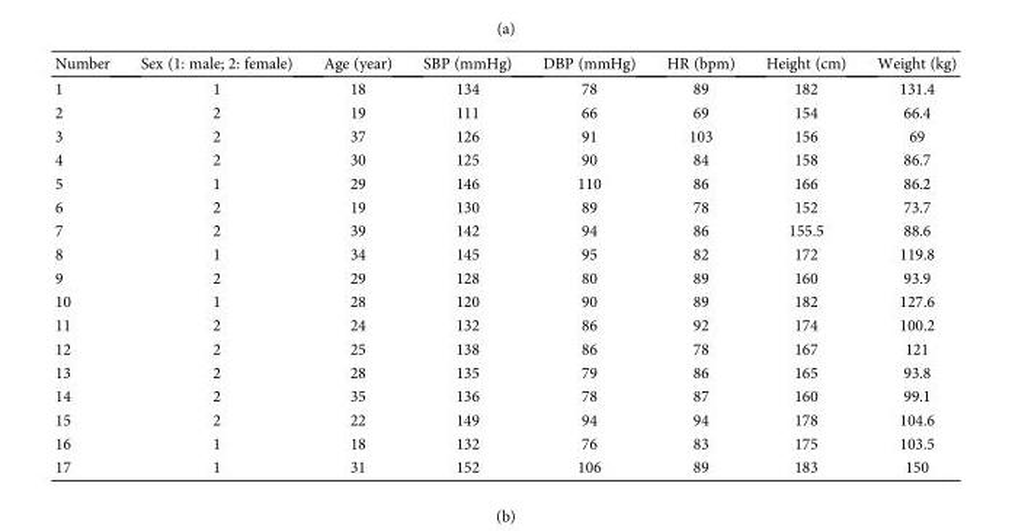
<table><thead><tr><td>Number</td><td>Sex (1: male; 2: female)</td><td>Age (year)</td><td>SBP (mmHg)</td><td>DBP (mmHg)</td><td>HR (bpm)</td><td>Height (cm)</td><td>Weight (kg)</td></tr></thead><tbody><tr><td>1</td><td>1</td><td>18</td><td>134</td><td>78</td><td>89</td><td>182</td><td>131.4</td></tr><tr><td>2</td><td>2</td><td>19</td><td>111</td><td>66</td><td>69</td><td>154</td><td>66.4</td></tr><tr><td>3</td><td>2</td><td>37</td><td>126</td><td>91</td><td>103</td><td>156</td><td>69</td></tr><tr><td>4</td><td>2</td><td>30</td><td>125</td><td>90</td><td>84</td><td>158</td><td>86.7</td></tr><tr><td>5</td><td>1</td><td>29</td><td>146</td><td>110</td><td>86</td><td>166</td><td>86.2</td></tr><tr><td>6</td><td>2</td><td>19</td><td>130</td><td>89</td><td>78</td><td>152</td><td>73.7</td></tr><tr><td>7</td><td>2</td><td>39</td><td>142</td><td>94</td><td>86</td><td>155.5</td><td>88.6</td></tr><tr><td>8</td><td>1</td><td>34</td><td>145</td><td>95</td><td>82</td><td>172</td><td>119.8</td></tr><tr><td>9</td><td>2</td><td>29</td><td>128</td><td>80</td><td>89</td><td>160</td><td>93.9</td></tr><tr><td>10</td><td>1</td><td>28</td><td>120</td><td>90</td><td>89</td><td>182</td><td>127.6</td></tr><tr><td>11</td><td>2</td><td>24</td><td>132</td><td>86</td><td>92</td><td>174</td><td>100.2</td></tr><tr><td>12</td><td>2</td><td>25</td><td>138</td><td>86</td><td>78</td><td>167</td><td>121</td></tr><tr><td>13</td><td>2</td><td>28</td><td>135</td><td>79</td><td>86</td><td>165</td><td>93.8</td></tr><tr><td>14</td><td>2</td><td>35</td><td>136</td><td>78</td><td>87</td><td>160</td><td>99.1</td></tr><tr><td>15</td><td>2</td><td>22</td><td>149</td><td>94</td><td>94</td><td>178</td><td>104.6</td></tr><tr><td>16</td><td>1</td><td>18</td><td>132</td><td>76</td><td>83</td><td>175</td><td>103.5</td></tr><tr><td>17</td><td>1</td><td>31</td><td>152</td><td>106</td><td>89</td><td>183</td><td>150</td></tr></tbody></table>